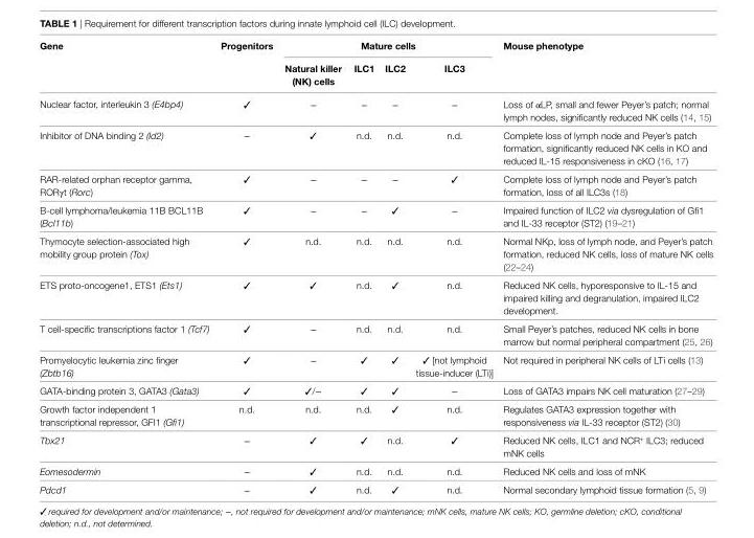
<table><thead><tr><td rowspan="2">Gene</td><td rowspan="2">Progenitors</td><td colspan="4">Mature cells</td><td rowspan="2">Mouse phenotype</td></tr><tr><td>Natural killer (NK) cells</td><td>iLC1</td><td>iLC2</td><td>iLC3</td></tr></thead><tbody><tr><td>Nuclear factor, interleukin 3 (E4bp4)</td><td>✓</td><td>−</td><td>−</td><td>−</td><td>−</td><td>Loss of αLP, small and fewer Peyer’s patch; normal lymph nodes, significantly reduced NK cells (14, 15)</td></tr><tr><td>Inhibitor of DNA binding 2 (Id2)</td><td>−</td><td>✓</td><td>n.d.</td><td>n.d.</td><td>n.d.</td><td>Complete loss of lymph node and Peyer’s patch formation, significantly reduced NK cells in KO and reduced IL-15 responsiveness in cKO (16, 17)</td></tr><tr><td>RAR-related orphan receptor gamma, RORγt (Rorc)</td><td>✓</td><td>−</td><td>−</td><td>−</td><td>✓</td><td>Complete loss of lymph node and Peyer’s patch formation, loss of all ILC3s (18)</td></tr><tr><td>B-cell lymphoma/leukemia 11B BCL11B (Bcl11b)</td><td>✓</td><td>−</td><td>−</td><td>✓</td><td>−</td><td>Impaired function of ILC2 via dysregulation of Gfi1 and IL-33 receptor (ST2) (19–21)</td></tr><tr><td>Thymocyte selection-associated high mobility group protein (Tox)</td><td>✓</td><td>n.d.</td><td>n.d.</td><td>n.d.</td><td>n.d.</td><td>Normal NKp, loss of lymph node, and Peyer’s patch formation, reduced NK cells, loss of mature NK cells (22–24)</td></tr><tr><td>ETS proto-oncogene1, ETS1 (Ets1)</td><td>✓</td><td>✓</td><td>n.d.</td><td>✓</td><td>n.d.</td><td>Reduced NK cells, hyporesponsive to IL-15 and impaired killing and degranulation, impaired ILC2 development.</td></tr><tr><td>T cell-specific transcriptions factor 1 (Tcf7)</td><td>✓</td><td>−</td><td>n.d.</td><td>n.d.</td><td>n.d.</td><td>Small Peyer’s patches, reduced NK cells in bone marrow but normal peripheral compartment (25, 26)</td></tr><tr><td>Promyelocytic leukemia zinc finger (Zbtb16)</td><td>✓</td><td>−</td><td>✓</td><td>✓</td><td>✓ [not lymphoid tissue-inducer (LTi)]</td><td>Not required in peripheral NK cells of LTi cells (13)</td></tr><tr><td>GATA-binding protein 3, GATA3 (Gata3)</td><td>✓</td><td>✓/−</td><td>✓</td><td>✓</td><td>−</td><td>Loss of GATA3 impairs NK cell maturation (27–29)</td></tr><tr><td>Growth factor independent 1 transcriptional repressor, GFI1 (Gfi1)</td><td>n.d.</td><td>n.d.</td><td>n.d.</td><td>✓</td><td>n.d.</td><td>Regulates GATA3 expression together with responsiveness via IL-33 receptor (ST2) (30)</td></tr><tr><td>Tbx21</td><td>−</td><td>✓</td><td>✓</td><td>n.d.</td><td>✓</td><td>Reduced NK cells, ILC1 and NCR<sup>+</sup> ILC3; reduced mNK cells</td></tr><tr><td>Eomesodermin</td><td>−</td><td>✓</td><td>n.d.</td><td>n.d.</td><td>n.d.</td><td>Reduced NK cells and loss of mNK</td></tr><tr><td>Pdcd1</td><td>−</td><td>✓</td><td>n.d.</td><td>✓</td><td>n.d.</td><td>Normal secondary lymphoid tissue formation (5, 9)</td></tr></tbody></table>